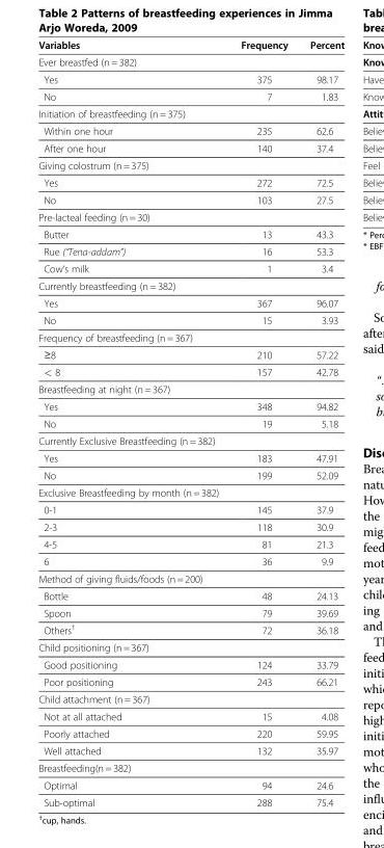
<table><thead><tr><td>Variables</td><td>Frequency</td><td>Percent</td></tr></thead><tbody><tr><td colspan="3">Ever breastfed (n = 382)</td></tr><tr><td>Yes</td><td>375</td><td>98.17</td></tr><tr><td>No</td><td>7</td><td>1.83</td></tr><tr><td colspan="3">Initiation of breastfeeding (n = 375)</td></tr><tr><td>Within one hour</td><td>235</td><td>62.6</td></tr><tr><td>After one hour</td><td>140</td><td>37.4</td></tr><tr><td colspan="3">Giving colostrum (n = 375)</td></tr><tr><td>Yes</td><td>272</td><td>72.5</td></tr><tr><td>No</td><td>103</td><td>27.5</td></tr><tr><td colspan="3">Pre-lacteal feeding (n = 30)</td></tr><tr><td>Butter</td><td>13</td><td>43.3</td></tr><tr><td>Rue (“Tena-addam”)</td><td>16</td><td>53.3</td></tr><tr><td>Cow’s milk</td><td>1</td><td>3.4</td></tr><tr><td colspan="3">Currently breastfeeding (n = 382)</td></tr><tr><td>Yes</td><td>367</td><td>96.07</td></tr><tr><td>No</td><td>15</td><td>3.93</td></tr><tr><td colspan="3">Frequency of breastfeeding (n = 367)</td></tr><tr><td>≥8</td><td>210</td><td>57.22</td></tr><tr><td>&lt; 8</td><td>157</td><td>42.78</td></tr><tr><td colspan="3">Breastfeeding at night (n = 367)</td></tr><tr><td>Yes</td><td>348</td><td>94.82</td></tr><tr><td>No</td><td>19</td><td>5.18</td></tr><tr><td colspan="3">Currently Exclusive Breastfeeding (n = 382)</td></tr><tr><td>Yes</td><td>183</td><td>47.91</td></tr><tr><td>No</td><td>199</td><td>52.09</td></tr><tr><td colspan="3">Exclusive Breastfeeding by month (n = 382)</td></tr><tr><td>0-1</td><td>145</td><td>37.9</td></tr><tr><td>2-3</td><td>118</td><td>30.9</td></tr><tr><td>4-5</td><td>81</td><td>21.3</td></tr><tr><td>6</td><td>36</td><td>9.9</td></tr><tr><td colspan="3">Method of giving fluids/foods (n = 200)</td></tr><tr><td>Bottle</td><td>48</td><td>24.13</td></tr><tr><td>Spoon</td><td>79</td><td>39.69</td></tr><tr><td>Others<sup>†</sup></td><td>72</td><td>36.18</td></tr><tr><td colspan="3">Child positioning (n = 367)</td></tr><tr><td>Good positioning</td><td>124</td><td>33.79</td></tr><tr><td>Poor positioning</td><td>243</td><td>66.21</td></tr><tr><td colspan="3">Child attachment (n = 367)</td></tr><tr><td>Not at all attached</td><td>15</td><td>4.08</td></tr><tr><td>Poorly attached</td><td>220</td><td>59.95</td></tr><tr><td>Well attached</td><td>132</td><td>35.97</td></tr><tr><td colspan="3">Breastfeeding(n = 382)</td></tr><tr><td>Optimal</td><td>94</td><td>24.6</td></tr><tr><td>Sub-optimal</td><td>288</td><td>75.4</td></tr></tbody></table>